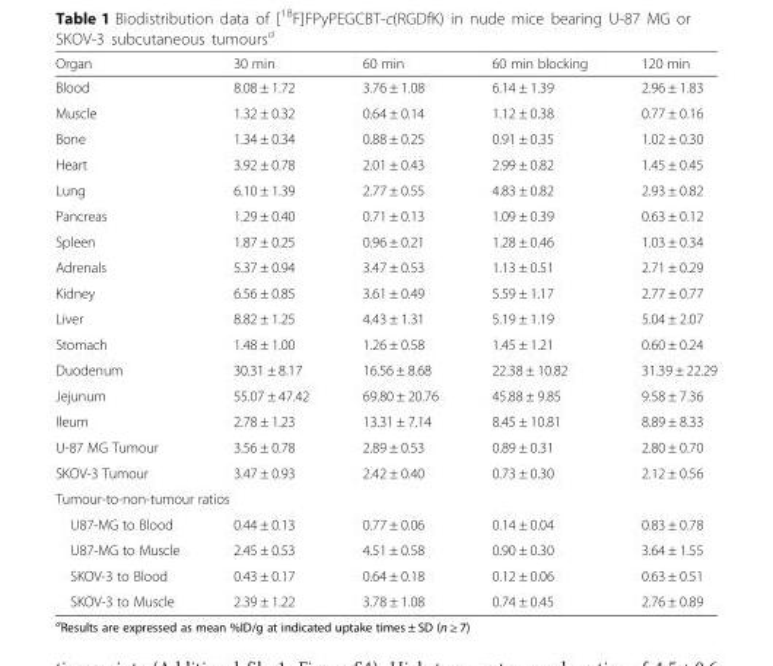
<table><thead><tr><td>Organ</td><td>30 min</td><td>60 min</td><td>60 min blocking</td><td>120 min</td></tr></thead><tbody><tr><td>Blood</td><td>8.08 ± 1.72</td><td>3.76 ± 1.08</td><td>6.14 ± 1.39</td><td>2.96 ± 1.83</td></tr><tr><td>Muscle</td><td>1.32 ± 0.32</td><td>0.64 ± 0.14</td><td>1.12 ± 0.38</td><td>0.77 ± 0.16</td></tr><tr><td>Bone</td><td>1.34 ± 0.34</td><td>0.88 ± 0.25</td><td>0.91 ± 0.35</td><td>1.02 ± 0.30</td></tr><tr><td>Heart</td><td>3.92 ± 0.78</td><td>2.01 ± 0.43</td><td>2.99 ± 0.82</td><td>1.45 ± 0.45</td></tr><tr><td>Lung</td><td>6.10 ± 1.39</td><td>2.77 ± 0.55</td><td>4.83 ± 0.82</td><td>2.93 ± 0.82</td></tr><tr><td>Pancreas</td><td>1.29 ± 0.40</td><td>0.71 ± 0.13</td><td>1.09 ± 0.39</td><td>0.63 ± 0.12</td></tr><tr><td>Spleen</td><td>1.87 ± 0.25</td><td>0.96 ± 0.21</td><td>1.28 ± 0.46</td><td>1.03 ± 0.34</td></tr><tr><td>Adrenals</td><td>5.37 ± 0.94</td><td>3.47 ± 0.53</td><td>1.13 ± 0.51</td><td>2.71 ± 0.29</td></tr><tr><td>Kidney</td><td>6.56 ± 0.85</td><td>3.61 ± 0.49</td><td>5.59 ± 1.17</td><td>2.77 ± 0.77</td></tr><tr><td>Liver</td><td>8.82 ± 1.25</td><td>4.43 ± 1.31</td><td>5.19 ± 1.19</td><td>5.04 ± 2.07</td></tr><tr><td>Stomach</td><td>1.48 ± 1.00</td><td>1.26 ± 0.58</td><td>1.45 ± 1.21</td><td>0.60 ± 0.24</td></tr><tr><td>Duodenum</td><td>30.31 ± 8.17</td><td>16.56 ± 8.68</td><td>22.38 ± 10.82</td><td>31.39 ± 22.29</td></tr><tr><td>Jejunum</td><td>55.07 ± 47.42</td><td>69.80 ± 20.76</td><td>45.88 ± 9.85</td><td>9.58 ± 7.36</td></tr><tr><td>Ileum</td><td>2.78 ± 1.23</td><td>13.31 ± 7.14</td><td>8.45 ± 10.81</td><td>8.89 ± 8.33</td></tr><tr><td>U-87 MG Tumour</td><td>3.56 ± 0.78</td><td>2.89 ± 0.53</td><td>0.89 ± 0.31</td><td>2.80 ± 0.70</td></tr><tr><td>SKOV-3 Tumour</td><td>3.47 ± 0.93</td><td>2.42 ± 0.40</td><td>0.73 ± 0.30</td><td>2.12 ± 0.56</td></tr><tr><td colspan="5">Tumour-to-non-tumour ratios</td></tr><tr><td>U87-MG to Blood</td><td>0.44 ± 0.13</td><td>0.77 ± 0.06</td><td>0.14 ± 0.04</td><td>0.83 ± 0.78</td></tr><tr><td>U87-MG to Muscle</td><td>2.45 ± 0.53</td><td>4.51 ± 0.58</td><td>0.90 ± 0.30</td><td>3.64 ± 1.55</td></tr><tr><td>SKOV-3 to Blood</td><td>0.43 ± 0.17</td><td>0.64 ± 0.18</td><td>0.12 ± 0.06</td><td>0.63 ± 0.51</td></tr><tr><td>SKOV-3 to Muscle</td><td>2.39 ± 1.22</td><td>3.78 ± 1.08</td><td>0.74 ± 0.45</td><td>2.76 ± 0.89</td></tr></tbody></table>